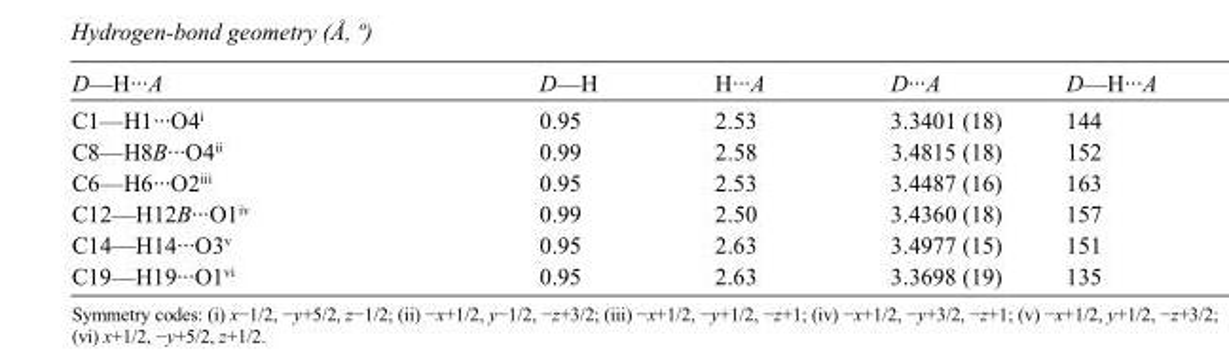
<table><tbody><tr><td>D—H···A</td><td>D—H</td><td>H···A</td><td>D···A</td><td>D—H···A</td></tr><tr><td>C1—H1···O4<sup>i</sup></td><td>0.95</td><td>2.53</td><td>3.3401 (18)</td><td>144</td></tr><tr><td>C8—H8B···O4<sup>ii</sup></td><td>0.99</td><td>2.58</td><td>3.4815 (18)</td><td>152</td></tr><tr><td>C6—H6···O2<sup>iii</sup></td><td>0.95</td><td>2.53</td><td>3.4487 (16)</td><td>163</td></tr><tr><td>C12—H12B···O1<sup>iv</sup></td><td>0.99</td><td>2.50</td><td>3.4360 (18)</td><td>157</td></tr><tr><td>C14—H14···O3<sup>v</sup></td><td>0.95</td><td>2.63</td><td>3.4977 (15)</td><td>151</td></tr><tr><td>C19—H19···O1<sup>vi</sup></td><td>0.95</td><td>2.63</td><td>3.3698 (19)</td><td>135</td></tr></tbody></table>